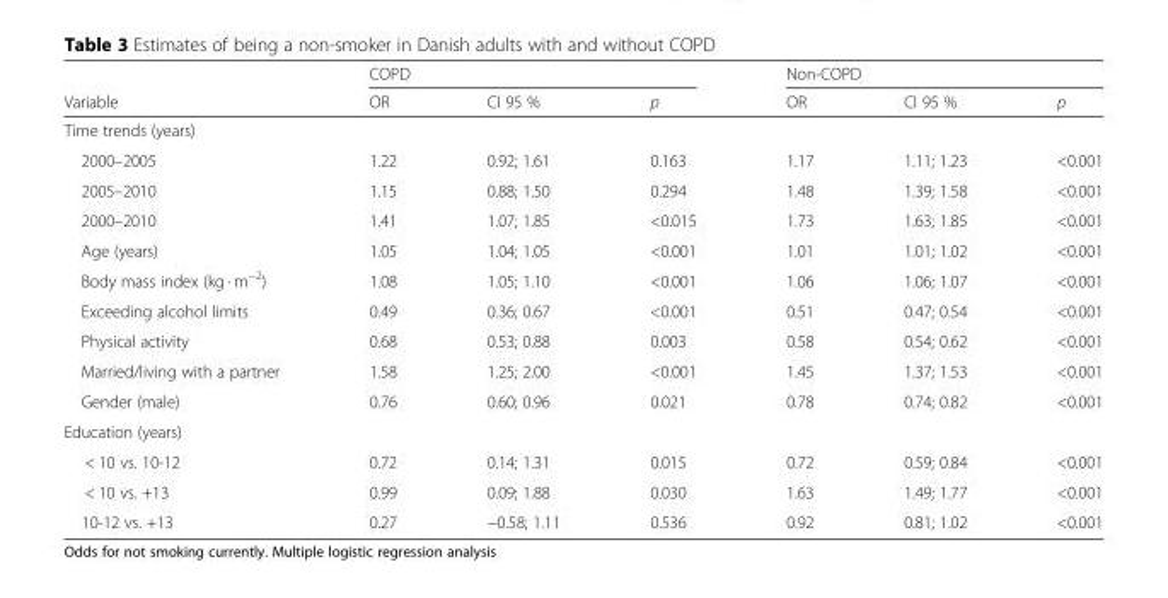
<table><thead><tr><td rowspan="2">Variable</td><td colspan="3">COPD</td><td colspan="3">Non-COPD</td></tr><tr><td>OR</td><td>CI 95 %</td><td>p</td><td>OR</td><td>CI 95 %</td><td>p</td></tr></thead><tbody><tr><td colspan="7">Time trends (years)</td></tr><tr><td>2000–2005</td><td>1.22</td><td>0.92; 1.61</td><td>0.163</td><td>1.17</td><td>1.11; 1.23</td><td>&lt;0.001</td></tr><tr><td>2005–2010</td><td>1.15</td><td>0.88; 1.50</td><td>0.294</td><td>1.48</td><td>1.39; 1.58</td><td>&lt;0.001</td></tr><tr><td>2000–2010</td><td>1.41</td><td>1.07; 1.85</td><td>&lt;0.015</td><td>1.73</td><td>1.63; 1.85</td><td>&lt;0.001</td></tr><tr><td>Age (years)</td><td>1.05</td><td>1.04; 1.05</td><td>&lt;0.001</td><td>1.01</td><td>1.01; 1.02</td><td>&lt;0.001</td></tr><tr><td>Body mass index (kg · m<sup>−2</sup>)</td><td>1.08</td><td>1.05; 1.10</td><td>&lt;0.001</td><td>1.06</td><td>1.06; 1.07</td><td>&lt;0.001</td></tr><tr><td>Exceeding alcohol limits</td><td>0.49</td><td>0.36; 0.67</td><td>&lt;0.001</td><td>0.51</td><td>0.47; 0.54</td><td>&lt;0.001</td></tr><tr><td>Physical activity</td><td>0.68</td><td>0.53; 0.88</td><td>0.003</td><td>0.58</td><td>0.54; 0.62</td><td>&lt;0.001</td></tr><tr><td>Married/living with a partner</td><td>1.58</td><td>1.25; 2.00</td><td>&lt;0.001</td><td>1.45</td><td>1.37; 1.53</td><td>&lt;0.001</td></tr><tr><td>Gender (male)</td><td>0.76</td><td>0.60; 0.96</td><td>0.021</td><td>0.78</td><td>0.74; 0.82</td><td>&lt;0.001</td></tr><tr><td colspan="7">Education (years)</td></tr><tr><td>&lt; 10 vs. 10-12</td><td>0.72</td><td>0.14; 1.31</td><td>0.015</td><td>0.72</td><td>0.59; 0.84</td><td>&lt;0.001</td></tr><tr><td>&lt; 10 vs. +13</td><td>0.99</td><td>0.09; 1.88</td><td>0.030</td><td>1.63</td><td>1.49; 1.77</td><td>&lt;0.001</td></tr><tr><td>10-12 vs. +13</td><td>0.27</td><td>−0.58; 1.11</td><td>0.536</td><td>0.92</td><td>0.81; 1.02</td><td>&lt;0.001</td></tr></tbody></table>